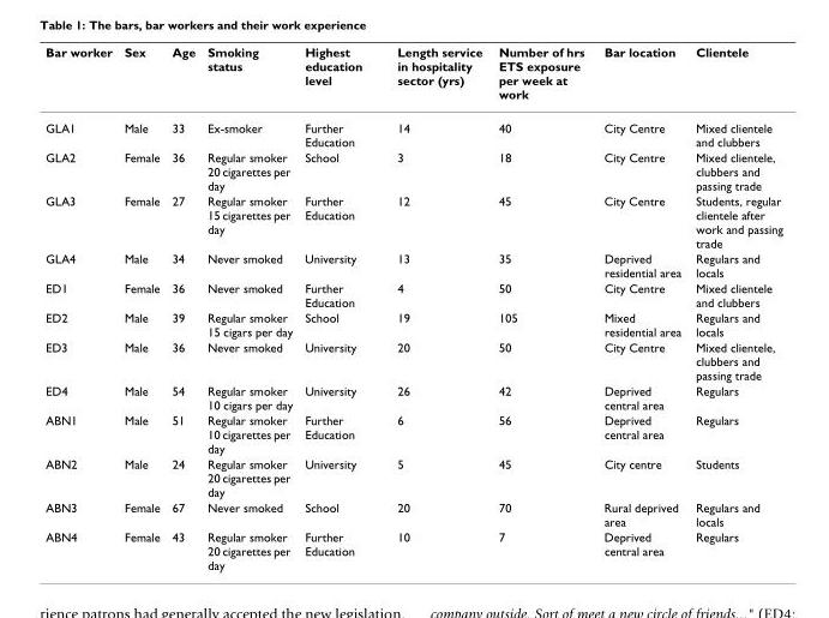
<table><thead><tr><td>Bar worker</td><td>Sex</td><td>Age</td><td>Smoking status</td><td>Highest education level</td><td>Length service in hospitality sector (yrs)</td><td>Number of hrs ETS exposure per week at work</td><td>Bar location</td><td>Clientele</td></tr></thead><tbody><tr><td>GLA1</td><td>Male</td><td>33</td><td>Ex-smoker</td><td>Further Education</td><td>14</td><td>40</td><td>City Centre</td><td>Mixed clientele and clubbers</td></tr><tr><td>GLA2</td><td>Female</td><td>36</td><td>Regular smoker 20 cigarettes per day</td><td>School</td><td>3</td><td>18</td><td>City Centre</td><td>Mixed clientele, clubbers and passing trade</td></tr><tr><td>GLA3</td><td>Female</td><td>27</td><td>Regular smoker 15 cigarettes per day</td><td>Further Education</td><td>12</td><td>45</td><td>City Centre</td><td>Students, regular clientele after work and passing trade</td></tr><tr><td>GLA4</td><td>Male</td><td>34</td><td>Never smoked</td><td>University</td><td>13</td><td>35</td><td>Deprived residential area</td><td>Regulars and locals</td></tr><tr><td>ED1</td><td>Female</td><td>36</td><td>Never smoked</td><td>Further Education</td><td>4</td><td>50</td><td>City Centre</td><td>Mixed clientele and clubbers</td></tr><tr><td>ED2</td><td>Male</td><td>39</td><td>Regular smoker 15 cigars per day</td><td>School</td><td>19</td><td>105</td><td>Mixed residential area</td><td>Regulars and locals</td></tr><tr><td>ED3</td><td>Male</td><td>36</td><td>Never smoked</td><td>University</td><td>20</td><td>50</td><td>City Centre</td><td>Mixed clientele, clubbers and passing trade</td></tr><tr><td>ED4</td><td>Male</td><td>54</td><td>Regular smoker 10 cigars per day</td><td>University</td><td>26</td><td>42</td><td>Deprived central area</td><td>Regulars</td></tr><tr><td>ABN1</td><td>Male</td><td>51</td><td>Regular smoker 10 cigarettes per day</td><td>Further Education</td><td>6</td><td>56</td><td>Deprived central area</td><td>Regulars</td></tr><tr><td>ABN2</td><td>Male</td><td>24</td><td>Regular smoker 20 cigarettes per day</td><td>University</td><td>5</td><td>45</td><td>City centre</td><td>Students</td></tr><tr><td>ABN3</td><td>Female</td><td>67</td><td>Never smoked</td><td>School</td><td>20</td><td>70</td><td>Rural deprived area</td><td>Regulars and locals</td></tr><tr><td>ABN4</td><td>Female</td><td>43</td><td>Regular smoker 20 cigarettes per day</td><td>Further Education</td><td>10</td><td>7</td><td>Deprived central area</td><td>Regulars</td></tr></tbody></table>